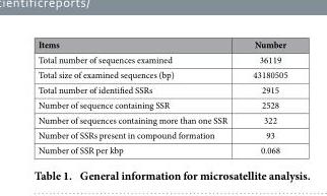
<table><thead><tr><td>Items</td><td>Number</td></tr></thead><tbody><tr><td>Total number of sequences examined</td><td>36119</td></tr><tr><td>Total size of examined sequences (bp)</td><td>43180505</td></tr><tr><td>Total number of identified SSRs</td><td>2915</td></tr><tr><td>Number of sequence containing SSR</td><td>2528</td></tr><tr><td>Number of sequences containing more than one SSR</td><td>322</td></tr><tr><td>Number of SSRs present in compound formation</td><td>93</td></tr><tr><td>Number of SSR per kbp</td><td>0.068</td></tr></tbody></table>